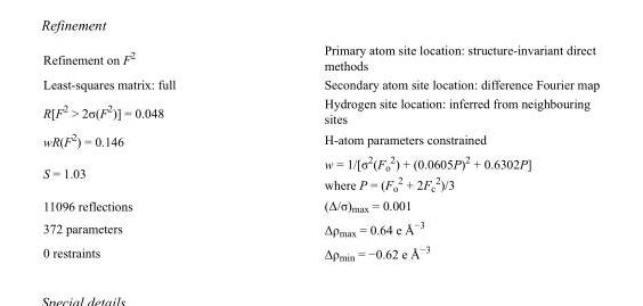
<table><tbody><tr><td>Refinement on F<sup>2</sup></td><td>Primary atom site location: structure-invariant direct methods</td></tr><tr><td>Least-squares matrix: full</td><td>Secondary atom site location: difference Fourier map</td></tr><tr><td>R[F<sup>2</sup> &gt; 2σ(F<sup>2</sup>)] = 0.048</td><td>Hydrogen site location: inferred from neighbouring sites</td></tr><tr><td>wR(F<sup>2</sup>) = 0.146</td><td>H-atom parameters constrained</td></tr><tr><td>S = 1.03</td><td>w = 1/[σ<sup>2</sup>(F<sub>o</sub> <sup>2</sup>) + (0.0605P)<sup>2</sup> + 0.6302P] where P = (F<sub>o</sub> <sup>2</sup> + 2F<sub>c</sub> <sup>2</sup>)/3</td></tr><tr><td>11096 reflections</td><td>(Δ/σ)<sub>max</sub> = 0.001</td></tr><tr><td>372 parameters</td><td>Δρ<sub>max</sub> = 0.64 e Å<sup>−3</sup></td></tr><tr><td>0 restraints</td><td>Δρ<sub>min</sub> = −0.62 e Å<sup>−3</sup></td></tr></tbody></table>